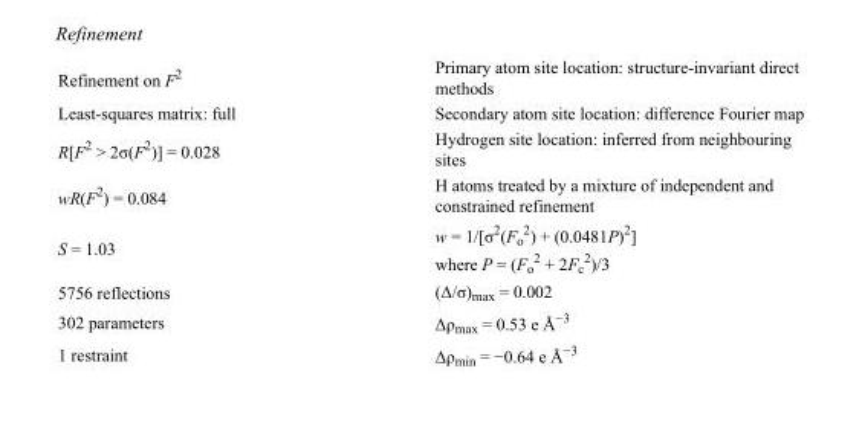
<table><tbody><tr><td>Refinement on F<sup>2</sup></td><td>Primary atom site location: structure-invariant direct methods</td></tr><tr><td>Least-squares matrix: full</td><td>Secondary atom site location: difference Fourier map</td></tr><tr><td>R[F<sup>2</sup> &gt; 2σ(F<sup>2</sup>)] = 0.028</td><td>Hydrogen site location: inferred from neighbouring sites</td></tr><tr><td>wR(F<sup>2</sup>) = 0.084</td><td>H atoms treated by a mixture of independent and constrained refinement</td></tr><tr><td>S = 1.03</td><td>w = 1/[σ<sup>2</sup>(F<sub>o</sub> <sup>2</sup>) + (0.0481P)<sup>2</sup>] where P = (F<sub>o</sub> <sup>2</sup> + 2F<sub>c</sub> <sup>2</sup>)/3</td></tr><tr><td>5756 reflections</td><td>(Δ/σ)<sub>max</sub> = 0.002</td></tr><tr><td>302 parameters</td><td>Δρ<sub>max</sub> = 0.53 e Å<sup>−3</sup></td></tr><tr><td>1 restraint</td><td>Δρ<sub>min</sub> = −0.64 e Å<sup>−3</sup></td></tr></tbody></table>